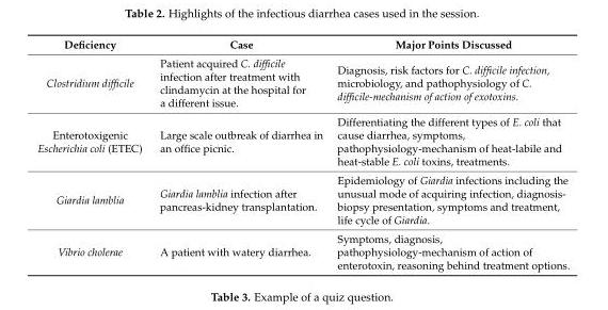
<table><thead><tr><td>Deficiency</td><td>Case</td><td>Major Points Discussed</td></tr></thead><tbody><tr><td>Clostridium difficile</td><td>Patient acquired C. difficile infection after treatment with clindamycin at the hospital for a different issue.</td><td>Diagnosis, risk factors for C. difficile infection, microbiology, and pathophysiology of C. difficile-mechanism of action of exotoxins.</td></tr><tr><td>Enterotoxigenic Escherichia coli (ETEC)</td><td>Large scale outbreak of diarrhea in an office picnic.</td><td>Differentiating the different types of E. coli that cause diarrhea, symptoms, pathophysiology-mechanism of heat-labile and heat-stable E. coli toxins, treatments.</td></tr><tr><td>Giardia lamblia</td><td>Giardia lamblia infection after pancreas-kidney transplantation.</td><td>Epidemiology of Giardia infections including the unusual mode of acquiring infection, diagnosis- biopsy presentation, symptoms and treatment, life cycle of Giardia.</td></tr><tr><td>Vibrio cholerae</td><td>A patient with watery diarrhea.</td><td>Symptoms, diagnosis, pathophysiology-mechanism of action of enterotoxin, reasoning behind treatment options.</td></tr></tbody></table>